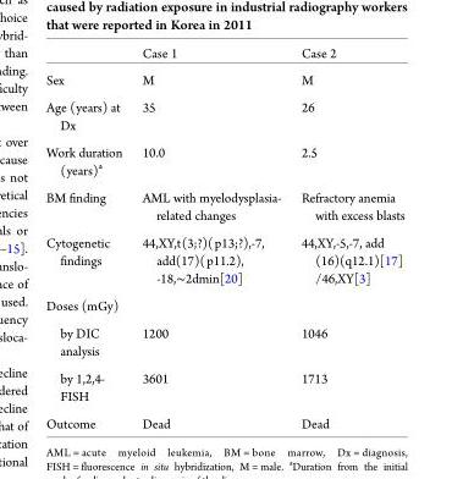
<table><thead><tr><td></td><td>Case 1</td><td>Case 2</td></tr></thead><tbody><tr><td>Sex</td><td>M</td><td>M</td></tr><tr><td>Age (years) at Dx</td><td>35</td><td>26</td></tr><tr><td>Work duration (years)<sup>a</sup></td><td>10.0</td><td>2.5</td></tr><tr><td>BM finding</td><td>AML with myelodysplasia- related changes</td><td>Refractory anemia with excess blasts</td></tr><tr><td>Cytogenetic findings</td><td>44,XY,t(3;?)(p13;?),-7, add(17)(p11.2), -18,∼2dmin[20]</td><td>44,XY,-5,-7, add (16)(q12.1)[17] /46,XY[3]</td></tr><tr><td colspan="3">Doses (mGy)</td></tr><tr><td>by DIC analysis</td><td>1200</td><td>1046</td></tr><tr><td>by 1,2,4- FISH</td><td>3601</td><td>1713</td></tr><tr><td>Outcome</td><td>Dead</td><td>Dead</td></tr></tbody></table>